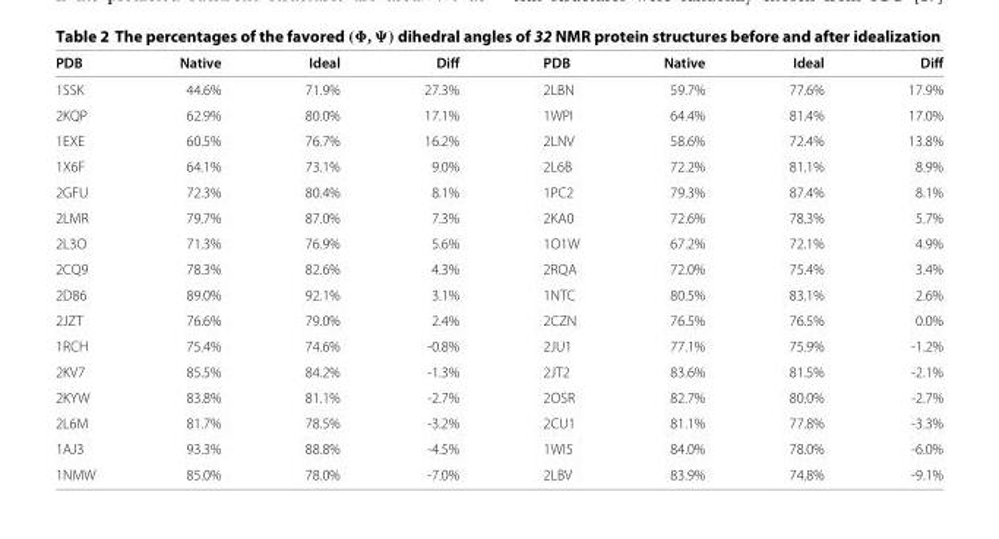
<table><thead><tr><td>PDB</td><td>Native</td><td>Ideal</td><td>Diff</td><td>PDB</td><td>Native</td><td>Ideal</td><td>Diff</td></tr></thead><tbody><tr><td>1SSK</td><td>44.6%</td><td>71.9%</td><td>27.3%</td><td>2LBN</td><td>59.7%</td><td>77.6%</td><td>17.9%</td></tr><tr><td>2KQP</td><td>62.9%</td><td>80.0%</td><td>17.1%</td><td>1WPI</td><td>64.4%</td><td>81.4%</td><td>17.0%</td></tr><tr><td>1EXE</td><td>60.5%</td><td>76.7%</td><td>16.2%</td><td>2LNV</td><td>58.6%</td><td>72.4%</td><td>13.8%</td></tr><tr><td>1X6F</td><td>64.1%</td><td>73.1%</td><td>9.0%</td><td>2L6B</td><td>72.2%</td><td>81.1%</td><td>8.9%</td></tr><tr><td>2GFU</td><td>72.3%</td><td>80.4%</td><td>8.1%</td><td>1PC2</td><td>79.3%</td><td>87.4%</td><td>8.1%</td></tr><tr><td>2LMR</td><td>79.7%</td><td>87.0%</td><td>7.3%</td><td>2KA0</td><td>72.6%</td><td>78.3%</td><td>5.7%</td></tr><tr><td>2L3O</td><td>71.3%</td><td>76.9%</td><td>5.6%</td><td>1O1W</td><td>67.2%</td><td>72.1%</td><td>4.9%</td></tr><tr><td>2CQ9</td><td>78.3%</td><td>82.6%</td><td>4.3%</td><td>2RQA</td><td>72.0%</td><td>75.4%</td><td>3.4%</td></tr><tr><td>2D86</td><td>89.0%</td><td>92.1%</td><td>3.1%</td><td>1NTC</td><td>80.5%</td><td>83.1%</td><td>2.6%</td></tr><tr><td>2JZT</td><td>76.6%</td><td>79.0%</td><td>2.4%</td><td>2CZN</td><td>76.5%</td><td>76.5%</td><td>0.0%</td></tr><tr><td>1RCH</td><td>75.4%</td><td>74.6%</td><td>-0.8%</td><td>2JU1</td><td>77.1%</td><td>75.9%</td><td>-1.2%</td></tr><tr><td>2KV7</td><td>85.5%</td><td>84.2%</td><td>-1.3%</td><td>2JT2</td><td>83.6%</td><td>81.5%</td><td>-2.1%</td></tr><tr><td>2KYW</td><td>83.8%</td><td>81.1%</td><td>-2.7%</td><td>2OSR</td><td>82.7%</td><td>80.0%</td><td>-2.7%</td></tr><tr><td>2L6M</td><td>81.7%</td><td>78.5%</td><td>-3.2%</td><td>2CU1</td><td>81.1%</td><td>77.8%</td><td>-3.3%</td></tr><tr><td>1AJ3</td><td>93.3%</td><td>88.8%</td><td>-4.5%</td><td>1WI5</td><td>84.0%</td><td>78.0%</td><td>-6.0%</td></tr><tr><td>1NMW</td><td>85.0%</td><td>78.0%</td><td>-7.0%</td><td>2LBV</td><td>83.9%</td><td>74.8%</td><td>-9.1%</td></tr></tbody></table>